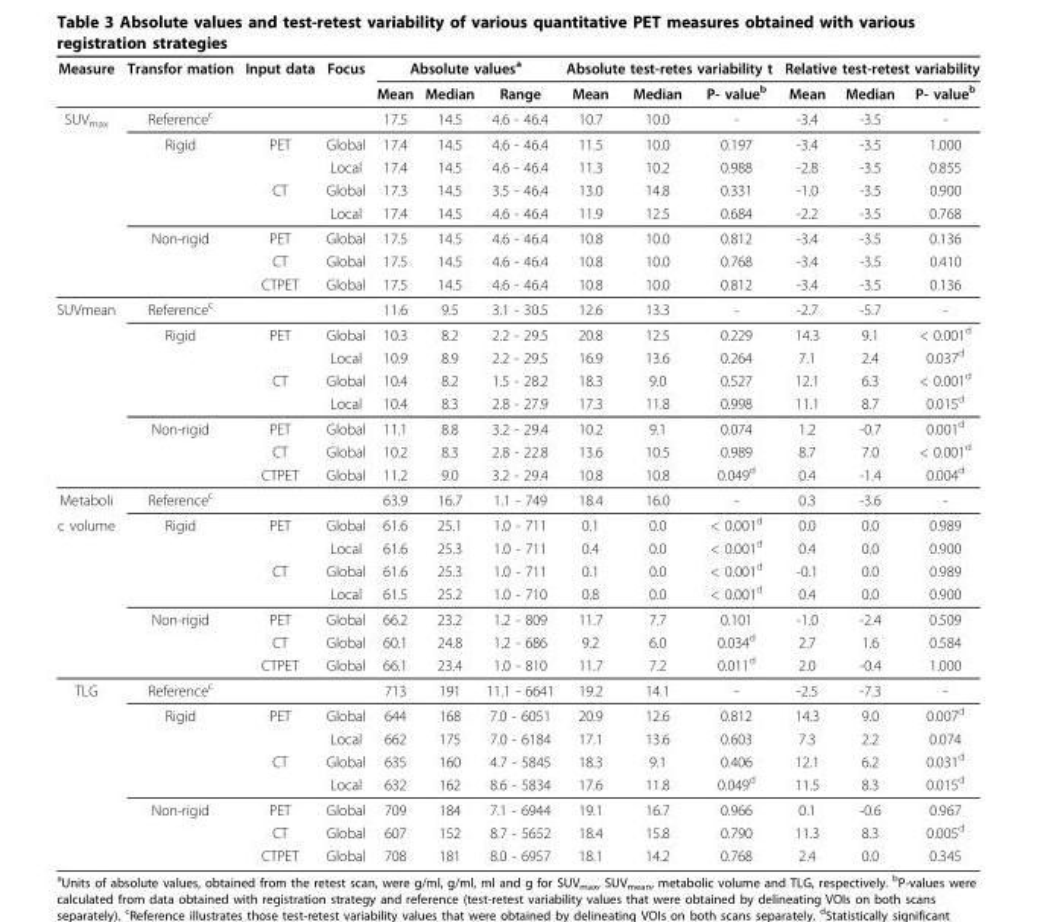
<table><thead><tr><td rowspan="2">Measure</td><td rowspan="2">Transfor mation</td><td rowspan="2">Input data</td><td rowspan="2">Focus</td><td colspan="3">Absolute values<sup>a</sup></td><td colspan="3">Absolute test-retes variability t</td><td colspan="3">Relative test-retest variability</td></tr><tr><td>Mean</td><td>Median</td><td>Range</td><td>Mean</td><td>Median</td><td>P- value<sup>b</sup></td><td>Mean</td><td>Median</td><td>P- value<sup>b</sup></td></tr></thead><tbody><tr><td rowspan="8">SUV<sub>max</sub></td><td>Reference<sup>c</sup></td><td></td><td></td><td>17.5</td><td>14.5</td><td>4.6 - 46.4</td><td>10.7</td><td>10.0</td><td>-</td><td>-3.4</td><td>-3.5</td><td>-</td></tr><tr><td>Rigid</td><td>PET</td><td>Global</td><td>17.4</td><td>14.5</td><td>4.6 - 46.4</td><td>11.5</td><td>10.0</td><td>0.197</td><td>-3.4</td><td>-3.5</td><td>1.000</td></tr><tr><td></td><td></td><td>Local</td><td>17.4</td><td>14.5</td><td>4.6 - 46.4</td><td>11.3</td><td>10.2</td><td>0.988</td><td>-2.8</td><td>-3.5</td><td>0.855</td></tr><tr><td></td><td>CT</td><td>Global</td><td>17.3</td><td>14.5</td><td>3.5 - 46.4</td><td>13.0</td><td>14.8</td><td>0.331</td><td>-1.0</td><td>-3.5</td><td>0.900</td></tr><tr><td></td><td></td><td>Local</td><td>17.4</td><td>14.5</td><td>4.6 - 46.4</td><td>11.9</td><td>12.5</td><td>0.684</td><td>-2.2</td><td>-3.5</td><td>0.768</td></tr><tr><td>Non-rigid</td><td>PET</td><td>Global</td><td>17.5</td><td>14.5</td><td>4.6 - 46.4</td><td>10.8</td><td>10.0</td><td>0.812</td><td>-3.4</td><td>-3.5</td><td>0.136</td></tr><tr><td></td><td>CT</td><td>Global</td><td>17.5</td><td>14.5</td><td>4.6 - 46.4</td><td>10.8</td><td>10.0</td><td>0.768</td><td>-3.4</td><td>-3.5</td><td>0.410</td></tr><tr><td></td><td>CTPET</td><td>Global</td><td>17.5</td><td>14.5</td><td>4.6 - 46.4</td><td>10.8</td><td>10.0</td><td>0.812</td><td>-3.4</td><td>-3.5</td><td>0.136</td></tr><tr><td rowspan="8">SUVmean</td><td>Reference<sup>c</sup></td><td></td><td></td><td>11.6</td><td>9.5</td><td>3.1 - 30.5</td><td>12.6</td><td>13.3</td><td>-</td><td>-2.7</td><td>-5.7</td><td>-</td></tr><tr><td>Rigid</td><td>PET</td><td>Global</td><td>10.3</td><td>8.2</td><td>2.2 - 29.5</td><td>20.8</td><td>12.5</td><td>0.229</td><td>14.3</td><td>9.1</td><td>&lt; 0.001<sup>d</sup></td></tr><tr><td></td><td></td><td>Local</td><td>10.9</td><td>8.9</td><td>2.2 - 29.5</td><td>16.9</td><td>13.6</td><td>0.264</td><td>7.1</td><td>2.4</td><td>0.037<sup>d</sup></td></tr><tr><td></td><td>CT</td><td>Global</td><td>10.4</td><td>8.2</td><td>1.5 - 28.2</td><td>18.3</td><td>9.0</td><td>0.527</td><td>12.1</td><td>6.3</td><td>&lt; 0.001<sup>d</sup></td></tr><tr><td></td><td></td><td>Local</td><td>10.4</td><td>8.3</td><td>2.8 - 27.9</td><td>17.3</td><td>11.8</td><td>0.998</td><td>11.1</td><td>8.7</td><td>0.015<sup>d</sup></td></tr><tr><td>Non-rigid</td><td>PET</td><td>Global</td><td>11.1</td><td>8.8</td><td>3.2 - 29.4</td><td>10.2</td><td>9.1</td><td>0.074</td><td>1.2</td><td>-0.7</td><td>0.001<sup>d</sup></td></tr><tr><td></td><td>CT</td><td>Global</td><td>10.2</td><td>8.3</td><td>2.8 - 22.8</td><td>13.6</td><td>10.5</td><td>0.989</td><td>8.7</td><td>7.0</td><td>&lt; 0.001<sup>d</sup></td></tr><tr><td></td><td>CTPET</td><td>Global</td><td>11.2</td><td>9.0</td><td>3.2 - 29.4</td><td>10.8</td><td>10.8</td><td>0.049<sup>d</sup></td><td>0.4</td><td>-1.4</td><td>0.004<sup>d</sup></td></tr><tr><td>Metaboli</td><td>Reference<sup>c</sup></td><td></td><td></td><td>63.9</td><td>16.7</td><td>1.1 - 749</td><td>18.4</td><td>16.0</td><td>-</td><td>0.3</td><td>-3.6</td><td>-</td></tr><tr><td rowspan="7">c volume</td><td>Rigid</td><td>PET</td><td>Global</td><td>61.6</td><td>25.1</td><td>1.0 - 711</td><td>0.1</td><td>0.0</td><td>&lt; 0.001<sup>d</sup></td><td>0.0</td><td>0.0</td><td>0.989</td></tr><tr><td></td><td></td><td>Local</td><td>61.6</td><td>25.3</td><td>1.0 - 711</td><td>0.4</td><td>0.0</td><td>&lt; 0.001<sup>d</sup></td><td>0.4</td><td>0.0</td><td>0.900</td></tr><tr><td></td><td>CT</td><td>Global</td><td>61.6</td><td>25.3</td><td>1.0 - 711</td><td>0.1</td><td>0.0</td><td>&lt; 0.001<sup>d</sup></td><td>-0.1</td><td>0.0</td><td>0.989</td></tr><tr><td></td><td></td><td>Local</td><td>61.5</td><td>25.2</td><td>1.0 - 710</td><td>0.8</td><td>0.0</td><td>&lt; 0.001<sup>d</sup></td><td>0.4</td><td>0.0</td><td>0.900</td></tr><tr><td>Non-rigid</td><td>PET</td><td>Global</td><td>66.2</td><td>23.2</td><td>1.2 - 809</td><td>11.7</td><td>7.7</td><td>0.101</td><td>-1.0</td><td>-2.4</td><td>0.509</td></tr><tr><td></td><td>CT</td><td>Global</td><td>60.1</td><td>24.8</td><td>1.2 - 686</td><td>9.2</td><td>6.0</td><td>0.034<sup>d</sup></td><td>2.7</td><td>1.6</td><td>0.584</td></tr><tr><td></td><td>CTPET</td><td>Global</td><td>66.1</td><td>23.4</td><td>1.0 - 810</td><td>11.7</td><td>7.2</td><td>0.011<sup>d</sup></td><td>2.0</td><td>-0.4</td><td>1.000</td></tr><tr><td rowspan="8">TLG</td><td>Reference<sup>c</sup></td><td></td><td></td><td>713</td><td>191</td><td>11.1 - 6641</td><td>19.2</td><td>14.1</td><td>-</td><td>-2.5</td><td>-7.3</td><td>-</td></tr><tr><td>Rigid</td><td>PET</td><td>Global</td><td>644</td><td>168</td><td>7.0 - 6051</td><td>20.9</td><td>12.6</td><td>0.812</td><td>14.3</td><td>9.0</td><td>0.007<sup>d</sup></td></tr><tr><td></td><td></td><td>Local</td><td>662</td><td>175</td><td>7.0 - 6184</td><td>17.1</td><td>13.6</td><td>0.603</td><td>7.3</td><td>2.2</td><td>0.074</td></tr><tr><td></td><td>CT</td><td>Global</td><td>635</td><td>160</td><td>4.7 - 5845</td><td>18.3</td><td>9.1</td><td>0.406</td><td>12.1</td><td>6.2</td><td>0.031<sup>d</sup></td></tr><tr><td></td><td></td><td>Local</td><td>632</td><td>162</td><td>8.6 - 5834</td><td>17.6</td><td>11.8</td><td>0.049<sup>d</sup></td><td>11.5</td><td>8.3</td><td>0.015<sup>d</sup></td></tr><tr><td>Non-rigid</td><td>PET</td><td>Global</td><td>709</td><td>184</td><td>7.1 - 6944</td><td>19.1</td><td>16.7</td><td>0.966</td><td>0.1</td><td>-0.6</td><td>0.967</td></tr><tr><td></td><td>CT</td><td>Global</td><td>607</td><td>152</td><td>8.7 - 5652</td><td>18.4</td><td>15.8</td><td>0.790</td><td>11.3</td><td>8.3</td><td>0.005<sup>d</sup></td></tr><tr><td></td><td>CTPET</td><td>Global</td><td>708</td><td>181</td><td>8.0 - 6957</td><td>18.1</td><td>14.2</td><td>0.768</td><td>2.4</td><td>0.0</td><td>0.345</td></tr></tbody></table>